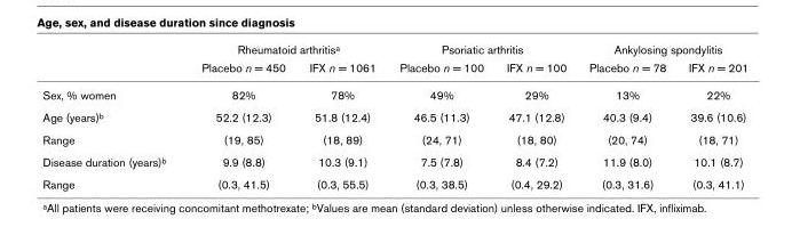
<table><thead><tr><td rowspan="2"></td><td colspan="2">Rheumatoid arthritis<sup>a</sup></td><td colspan="2">Psoriatic arthritis</td><td colspan="2">Ankylosing spondylitis</td></tr><tr><td>Placebo n = 450</td><td>IFX n = 1061</td><td>Placebo n = 100</td><td>IFX n = 100</td><td>Placebo n = 78</td><td>IFX n = 201</td></tr></thead><tbody><tr><td>Sex, % women</td><td>82%</td><td>78%</td><td>49%</td><td>29%</td><td>13%</td><td>22%</td></tr><tr><td>Age (years)<sup>b</sup></td><td>52.2 (12.3)</td><td>51.8 (12.4)</td><td>46.5 (11.3)</td><td>47.1 (12.8)</td><td>40.3 (9.4)</td><td>39.6 (10.6)</td></tr><tr><td>Range</td><td>(19, 85)</td><td>(18, 89)</td><td>(24, 71)</td><td>(18, 80)</td><td>(20, 74)</td><td>(18, 71)</td></tr><tr><td>Disease duration (years)<sup>b</sup></td><td>9.9 (8.8)</td><td>10.3 (9.1)</td><td>7.5 (7.8)</td><td>8.4 (7.2)</td><td>11.9 (8.0)</td><td>10.1 (8.7)</td></tr><tr><td>Range</td><td>(0.3, 41.5)</td><td>(0.3, 55.5)</td><td>(0.3, 38.5)</td><td>(0.4, 29.2)</td><td>(0.3, 31.6)</td><td>(0.3, 41.1)</td></tr></tbody></table>